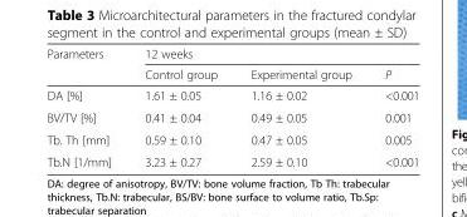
<table><thead><tr><td rowspan="2">Parameters</td><td colspan="3">12 weeks</td></tr><tr><td>Control group</td><td>Experimental group</td><td>P</td></tr></thead><tbody><tr><td>DA [%]</td><td>1.61 ± 0.05</td><td>1.16 ± 0.02</td><td>&lt;0.001</td></tr><tr><td>BV/TV [%]</td><td>0.41 ± 0.04</td><td>0.49 ± 0.05</td><td>0.001</td></tr><tr><td>Tb. Th [mm]</td><td>0.59 ± 0.10</td><td>0.47 ± 0.05</td><td>0.005</td></tr><tr><td>Tb.N [1/mm]</td><td>3.23 ± 0.27</td><td>2.59 ± 0.10</td><td>&lt;0.001</td></tr></tbody></table>